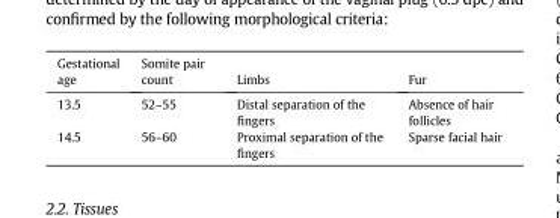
<table><thead><tr><td>Gestational age</td><td>Somite pair count</td><td>Limbs</td><td>Fur</td></tr></thead><tbody><tr><td>13.5</td><td>52–55</td><td>Distal separation of the fingers</td><td>Absence of hair follicles</td></tr><tr><td>14.5</td><td>56–60</td><td>Proximal separation of the fingers</td><td>Sparse facial hair</td></tr></tbody></table>